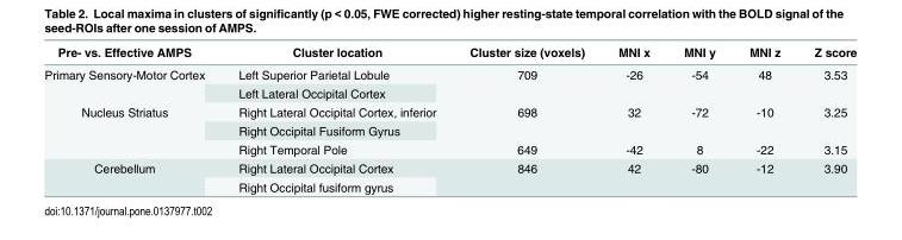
<table><thead><tr><td>Pre- vs. Effective AMPS</td><td>Cluster location</td><td>Cluster size (voxels)</td><td>MNI x</td><td>MNI y</td><td>MNI z</td><td>Z score</td></tr></thead><tbody><tr><td rowspan="2">Primary Sensory-Motor Cortex</td><td>Left Superior Parietal Lobule</td><td rowspan="2">709</td><td rowspan="2">-26</td><td rowspan="2">-54</td><td rowspan="2">48</td><td rowspan="2">3.53</td></tr><tr><td>Left Lateral Occipital Cortex</td></tr><tr><td rowspan="3">Nucleus Striatus</td><td>Right Lateral Occipital Cortex, inferior</td><td rowspan="2">698</td><td rowspan="2">32</td><td rowspan="2">-72</td><td rowspan="2">-10</td><td rowspan="2">3.25</td></tr><tr><td>Right Occipital Fusiform Gyrus</td></tr><tr><td>Right Temporal Pole</td><td>649</td><td>-42</td><td>8</td><td>-22</td><td>3.15</td></tr><tr><td rowspan="2">Cerebellum</td><td>Right Lateral Occipital Cortex</td><td rowspan="2">846</td><td rowspan="2">42</td><td rowspan="2">-80</td><td rowspan="2">-12</td><td rowspan="2">3.90</td></tr><tr><td>Right Occipital fusiform gyrus</td></tr></tbody></table>